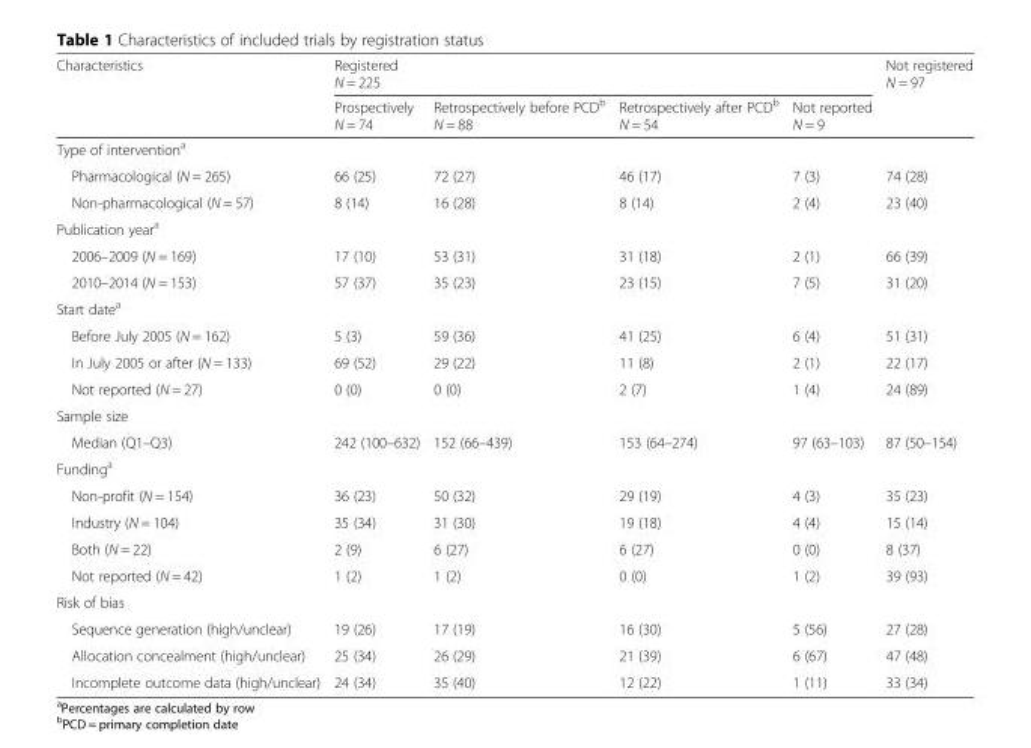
<table><thead><tr><td rowspan="2">Characteristics</td><td colspan="4">Registered N = 225</td><td rowspan="2">Not registered N = 97</td></tr><tr><td>Prospectively N = 74</td><td>Retrospectively before PCD<sup>b</sup> N = 88</td><td>Retrospectively after PCD<sup>b</sup> N = 54</td><td>Not reported N = 9</td></tr></thead><tbody><tr><td colspan="6">Type of intervention<sup>a</sup></td></tr><tr><td>Pharmacological (N = 265)</td><td>66 (25)</td><td>72 (27)</td><td>46 (17)</td><td>7 (3)</td><td>74 (28)</td></tr><tr><td>Non-pharmacological (N = 57)</td><td>8 (14)</td><td>16 (28)</td><td>8 (14)</td><td>2 (4)</td><td>23 (40)</td></tr><tr><td colspan="6">Publication year<sup>a</sup></td></tr><tr><td>2006–2009 (N = 169)</td><td>17 (10)</td><td>53 (31)</td><td>31 (18)</td><td>2 (1)</td><td>66 (39)</td></tr><tr><td>2010–2014 (N = 153)</td><td>57 (37)</td><td>35 (23)</td><td>23 (15)</td><td>7 (5)</td><td>31 (20)</td></tr><tr><td colspan="6">Start date<sup>a</sup></td></tr><tr><td>Before July 2005 (N = 162)</td><td>5 (3)</td><td>59 (36)</td><td>41 (25)</td><td>6 (4)</td><td>51 (31)</td></tr><tr><td>In July 2005 or after (N = 133)</td><td>69 (52)</td><td>29 (22)</td><td>11 (8)</td><td>2 (1)</td><td>22 (17)</td></tr><tr><td>Not reported (N = 27)</td><td>0 (0)</td><td>0 (0)</td><td>2 (7)</td><td>1 (4)</td><td>24 (89)</td></tr><tr><td colspan="6">Sample size</td></tr><tr><td>Median (Q1–Q3)</td><td>242 (100–632)</td><td>152 (66–439)</td><td>153 (64–274)</td><td>97 (63–103)</td><td>87 (50–154)</td></tr><tr><td colspan="6">Funding<sup>a</sup></td></tr><tr><td>Non-profit (N = 154)</td><td>36 (23)</td><td>50 (32)</td><td>29 (19)</td><td>4 (3)</td><td>35 (23)</td></tr><tr><td>Industry (N = 104)</td><td>35 (34)</td><td>31 (30)</td><td>19 (18)</td><td>4 (4)</td><td>15 (14)</td></tr><tr><td>Both (N = 22)</td><td>2 (9)</td><td>6 (27)</td><td>6 (27)</td><td>0 (0)</td><td>8 (37)</td></tr><tr><td>Not reported (N = 42)</td><td>1 (2)</td><td>1 (2)</td><td>0 (0)</td><td>1 (2)</td><td>39 (93)</td></tr><tr><td colspan="6">Risk of bias</td></tr><tr><td>Sequence generation (high/unclear)</td><td>19 (26)</td><td>17 (19)</td><td>16 (30)</td><td>5 (56)</td><td>27 (28)</td></tr><tr><td>Allocation concealment (high/unclear)</td><td>25 (34)</td><td>26 (29)</td><td>21 (39)</td><td>6 (67)</td><td>47 (48)</td></tr><tr><td>Incomplete outcome data (high/unclear)</td><td>24 (34)</td><td>35 (40)</td><td>12 (22)</td><td>1 (11)</td><td>33 (34)</td></tr></tbody></table>